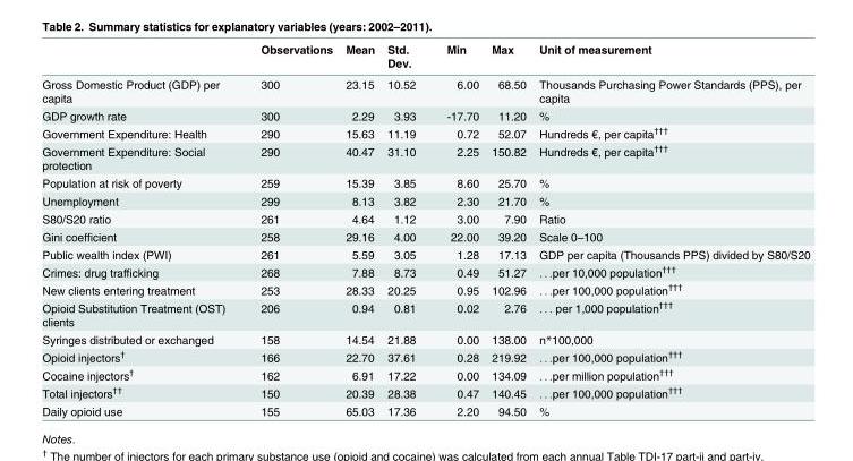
<table><thead><tr><td></td><td>Observations</td><td>Mean</td><td>Std. Dev.</td><td>Min</td><td>Max</td><td>Unit of measurement</td></tr></thead><tbody><tr><td>Gross Domestic Product (GDP) per capita</td><td>300</td><td>23.15</td><td>10.52</td><td>6.00</td><td>68.50</td><td>Thousands Purchasing Power Standards (PPS), per capita</td></tr><tr><td>GDP growth rate</td><td>300</td><td>2.29</td><td>3.93</td><td>-17.70</td><td>11.20</td><td>%</td></tr><tr><td>Government Expenditure: Health</td><td>290</td><td>15.63</td><td>11.19</td><td>0.72</td><td>52.07</td><td>Hundreds €, per capita<sup>†††</sup></td></tr><tr><td>Government Expenditure: Social protection</td><td>290</td><td>40.47</td><td>31.10</td><td>2.25</td><td>150.82</td><td>Hundreds €, per capita<sup>†††</sup></td></tr><tr><td>Population at risk of poverty</td><td>259</td><td>15.39</td><td>3.85</td><td>8.60</td><td>25.70</td><td>%</td></tr><tr><td>Unemployment</td><td>299</td><td>8.13</td><td>3.82</td><td>2.30</td><td>21.70</td><td>%</td></tr><tr><td>S80/S20 ratio</td><td>261</td><td>4.64</td><td>1.12</td><td>3.00</td><td>7.90</td><td>Ratio</td></tr><tr><td>Gini coefficient</td><td>258</td><td>29.16</td><td>4.00</td><td>22.00</td><td>39.20</td><td>Scale 0–100</td></tr><tr><td>Public wealth index (PWI)</td><td>261</td><td>5.59</td><td>3.05</td><td>1.28</td><td>17.13</td><td>GDP per capita (Thousands PPS) divided by S80/S20</td></tr><tr><td>Crimes: drug trafficking</td><td>268</td><td>7.88</td><td>8.73</td><td>0.49</td><td>51.27</td><td>. . .per 10,000 population<sup>†††</sup></td></tr><tr><td>New clients entering treatment</td><td>253</td><td>28.33</td><td>20.25</td><td>0.95</td><td>102.96</td><td>. . .per 100,000 population<sup>†††</sup></td></tr><tr><td>Opioid Substitution Treatment (OST) clients</td><td>206</td><td>0.94</td><td>0.81</td><td>0.02</td><td>2.76</td><td>. . . per 1,000 population<sup>†††</sup></td></tr><tr><td>Syringes distributed or exchanged</td><td>158</td><td>14.54</td><td>21.88</td><td>0.00</td><td>138.00</td><td>n*100,000</td></tr><tr><td>Opioid injectors<sup>†</sup></td><td>166</td><td>22.70</td><td>37.61</td><td>0.28</td><td>219.92</td><td>. . .per 100,000 population<sup>†††</sup></td></tr><tr><td>Cocaine injectors<sup>†</sup></td><td>162</td><td>6.91</td><td>17.22</td><td>0.00</td><td>134.09</td><td>. . .per million population<sup>†††</sup></td></tr><tr><td>Total injectors<sup>††</sup></td><td>150</td><td>20.39</td><td>28.38</td><td>0.47</td><td>140.45</td><td>. . .per 100,000 population<sup>†††</sup></td></tr><tr><td>Daily opioid use</td><td>155</td><td>65.03</td><td>17.36</td><td>2.20</td><td>94.50</td><td>%</td></tr></tbody></table>